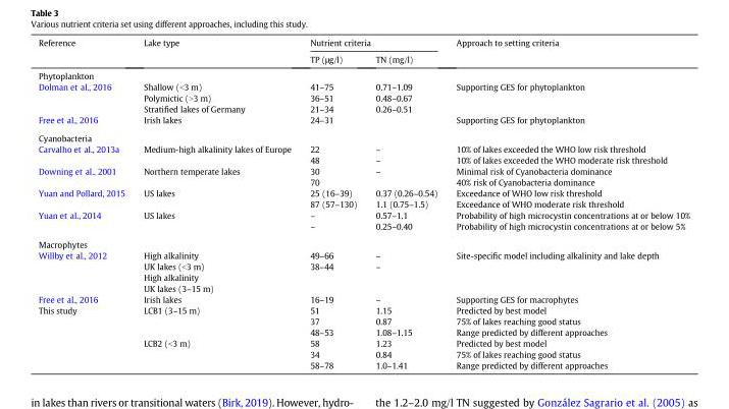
<table><thead><tr><td rowspan="2">Reference</td><td rowspan="2">Lake type</td><td colspan="2">Nutrient criteria</td><td rowspan="2">Approach to setting criteria</td></tr><tr><td>TP (μg/l)</td><td>TN (mg/l)</td></tr></thead><tbody><tr><td colspan="5">Phytoplankton</td></tr><tr><td rowspan="3">Dolman et al., 2016</td><td>Shallow (&lt;3 m)</td><td>41–75</td><td>0.71–1.09</td><td rowspan="3">Supporting GES for phytoplankton</td></tr><tr><td>Polymictic (&gt;3 m)</td><td>36–51</td><td>0.48–0.67</td></tr><tr><td>Stratified lakes of Germany</td><td>21–34</td><td>0.26–0.51</td></tr><tr><td>Free et al., 2016</td><td>Irish lakes</td><td>24–31</td><td></td><td>Supporting GES for phytoplankton</td></tr><tr><td colspan="5">Cyanobacteria</td></tr><tr><td rowspan="2">Carvalho et al., 2013a</td><td rowspan="2">Medium-high alkalinity lakes of Europe</td><td>22</td><td>–</td><td>10% of lakes exceeded the WHO low risk threshold</td></tr><tr><td>48</td><td>–</td><td>10% of lakes exceeded the WHO moderate risk threshold</td></tr><tr><td rowspan="2">Downing et al., 2001</td><td rowspan="2">Northern temperate lakes</td><td>30</td><td>–</td><td>Minimal risk of Cyanobacteria dominance</td></tr><tr><td>70</td><td></td><td>40% risk of Cyanobacteria dominance</td></tr><tr><td rowspan="2">Yuan and Pollard, 2015</td><td rowspan="2">US lakes</td><td>25 (16–39)</td><td>0.37 (0.26–0.54)</td><td>Exceedance of WHO low risk threshold</td></tr><tr><td>87 (57–130)</td><td>1.1 (0.75–1.5)</td><td>Exceedance of WHO moderate risk threshold</td></tr><tr><td rowspan="2">Yuan et al., 2014</td><td rowspan="2">US lakes</td><td>–</td><td>0.57–1.1</td><td>Probability of high microcystin concentrations at or below 10%</td></tr><tr><td>–</td><td>0.25–0.40</td><td>Probability of high microcystin concentrations at or below 5%</td></tr><tr><td colspan="5">Macrophytes</td></tr><tr><td rowspan="2">Willby et al., 2012</td><td rowspan="2">High alkalinity UK lakes (&lt;3 m) High alkalinity UK lakes (3–15 m)</td><td>49–66</td><td>–</td><td rowspan="2">Site-specific model including alkalinity and lake depth</td></tr><tr><td>38–44</td><td>–</td></tr><tr><td>Free et al., 2016</td><td>Irish lakes</td><td>16–19</td><td>–</td><td>Supporting GES for macrophytes</td></tr><tr><td rowspan="6">This study</td><td rowspan="3">LCB1 (3–15 m)</td><td>51</td><td>1.15</td><td>Predicted by best model</td></tr><tr><td>37</td><td>0.87</td><td>75% of lakes reaching good status</td></tr><tr><td>48–53</td><td>1.08–1.15</td><td>Range predicted by different approaches</td></tr><tr><td rowspan="3">LCB2 (&lt;3 m)</td><td>58</td><td>1.23</td><td>Predicted by best model</td></tr><tr><td>34</td><td>0.84</td><td>75% of lakes reaching good status</td></tr><tr><td>58–78</td><td>1.0–1.41</td><td>Range predicted by different approaches</td></tr></tbody></table>